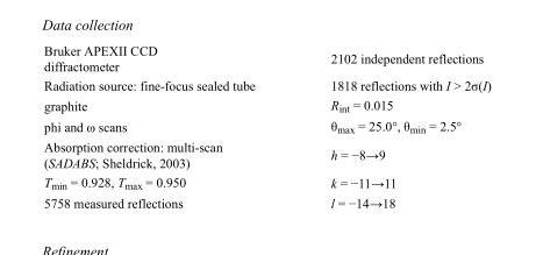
<table><tbody><tr><td>Bruker APEXII CCD diffractometer</td><td>2102 independent reflections</td></tr><tr><td>Radiation source: fine-focus sealed tube</td><td>1818 reflections with I &gt; 2σ(I)</td></tr><tr><td>graphite</td><td>R<sub>int</sub> = 0.015</td></tr><tr><td>phi and ω scans</td><td>θ<sub>max</sub> = 25.0°, θ<sub>min</sub> = 2.5°</td></tr><tr><td>Absorption correction: multi-scan (SADABS; Sheldrick, 2003)</td><td>h = −8→9</td></tr><tr><td>T<sub>min</sub> = 0.928, T<sub>max</sub> = 0.950</td><td>k = −11→11</td></tr><tr><td>5758 measured reflections</td><td>l = −14→18</td></tr></tbody></table>